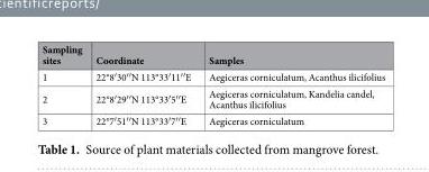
<table><thead><tr><td>Sampling sites</td><td>Coordinate</td><td>Samples</td></tr></thead><tbody><tr><td>1</td><td>22°8′30′′N 113°33′11′′E</td><td>Aegiceras corniculatum, Acanthus ilicifolius</td></tr><tr><td>2</td><td>22°8′29′′N 113°33′5′′E</td><td>Aegiceras corniculatum, Kandelia candel, Acanthus ilicifolius</td></tr><tr><td>3</td><td>22°7′51′′N 113°33′7′′E</td><td>Aegiceras corniculatum</td></tr></tbody></table>